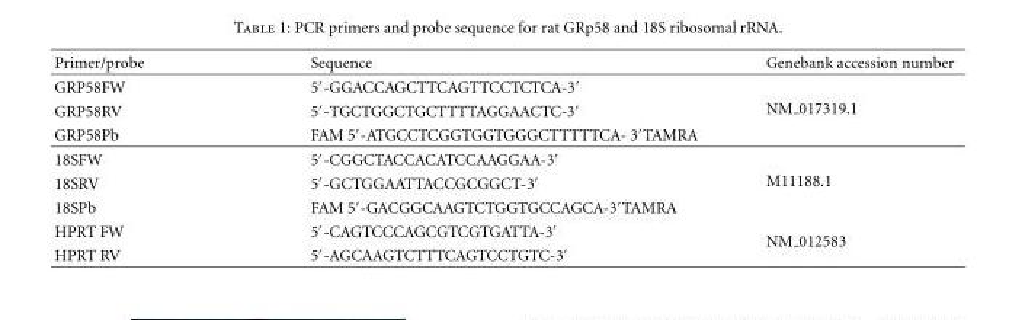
<table><thead><tr><td>Primer/probe</td><td>Sequence</td><td>Genebank accession number</td></tr></thead><tbody><tr><td>GRP58FW</td><td>5′-GGACCAGCTTCAGTTCCTCTCA-3′</td><td rowspan="3">NM 017319.1</td></tr><tr><td>GRP58RV</td><td>5′-TGCTGGCTGCTTTTAGGAACTC-3′</td></tr><tr><td>GRP58Pb</td><td>FAM 5′-ATGCCTCGGTGGTGGGCTTTTTCA- 3′TAMRA</td></tr><tr><td>18SFW</td><td>5′-CGGCTACCACATCCAAGGAA-3′</td><td rowspan="3">M11188.1</td></tr><tr><td>18SRV</td><td>5′-GCTGGAATTACCGCGGCT-3′</td></tr><tr><td>18SPb</td><td>FAM 5′-GACGGCAAGTCTGGTGCCAGCA-3′TAMRA</td></tr><tr><td>HPRT FW</td><td>5′-CAGTCCCAGCGTCGTGATTA-3′</td><td rowspan="2">NM 012583</td></tr><tr><td>HPRT RV</td><td>5′-AGCAAGTCTTTCAGTCCTGTC-3′</td></tr></tbody></table>